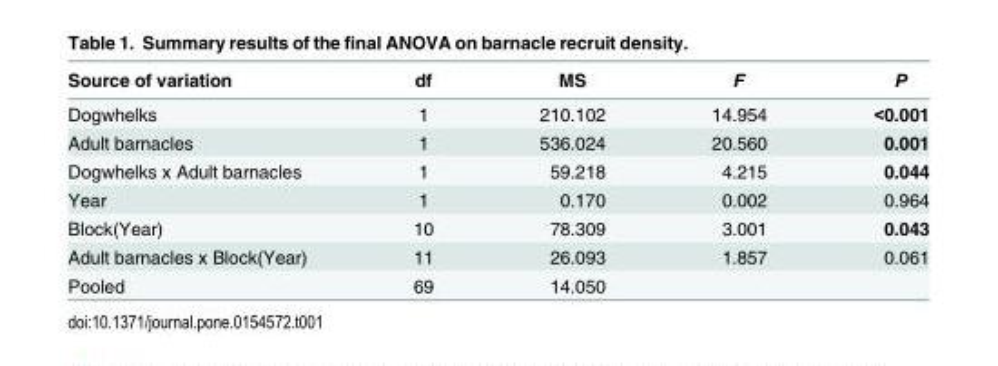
<table><thead><tr><td>Source of variation</td><td>df</td><td>MS</td><td>F</td><td>P</td></tr></thead><tbody><tr><td>Dogwhelks</td><td>1</td><td>210.102</td><td>14.954</td><td>&lt;0.001</td></tr><tr><td>Adult barnacles</td><td>1</td><td>536.024</td><td>20.560</td><td>0.001</td></tr><tr><td>Dogwhelks x Adult barnacles</td><td>1</td><td>59.218</td><td>4.215</td><td>0.044</td></tr><tr><td>Year</td><td>1</td><td>0.170</td><td>0.002</td><td>0.964</td></tr><tr><td>Block(Year)</td><td>10</td><td>78.309</td><td>3.001</td><td>0.043</td></tr><tr><td>Adult barnacles x Block(Year)</td><td>11</td><td>26.093</td><td>1.857</td><td>0.061</td></tr><tr><td>Pooled</td><td>69</td><td>14.050</td><td></td><td></td></tr></tbody></table>